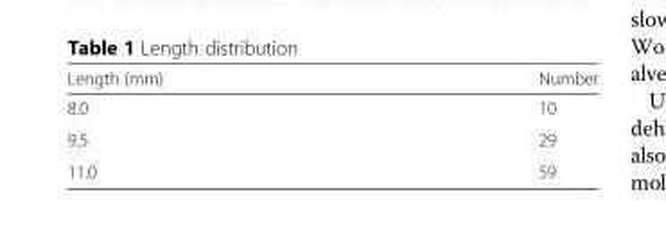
<table><thead><tr><td>Length (mm)</td><td>Number</td></tr></thead><tbody><tr><td>8.0</td><td>10</td></tr><tr><td>9.5</td><td>29</td></tr><tr><td>11.0</td><td>59</td></tr></tbody></table>